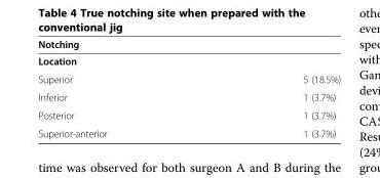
<table><thead><tr><td>Notching</td><td></td></tr></thead><tbody><tr><td colspan="2">Location</td></tr><tr><td>Superior</td><td>5 (18.5%)</td></tr><tr><td>Inferior</td><td>1 (3.7%)</td></tr><tr><td>Posterior</td><td>1 (3.7%)</td></tr><tr><td>Superior-anterior</td><td>1 (3.7%)</td></tr></tbody></table>